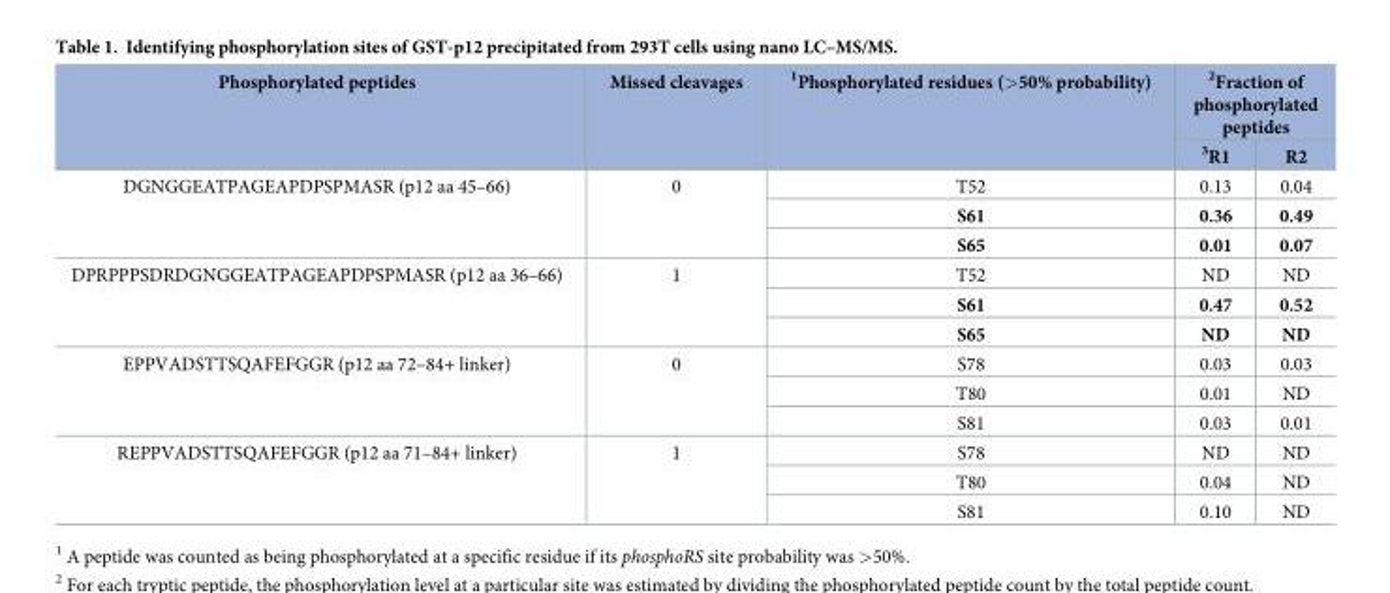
<table><thead><tr><td rowspan="2">Phosphorylated peptides</td><td rowspan="2">Missed cleavages</td><td rowspan="2"><sup>1</sup>Phosphorylated residues (&gt;50% probability)</td><td colspan="2"><sup>2</sup>Fraction of phosphorylated peptides</td></tr><tr><td><sup>3</sup>R1</td><td>R2</td></tr></thead><tbody><tr><td rowspan="3">DGNGGEATPAGEAPDPSPMASR (p12 aa 45–66)</td><td rowspan="3">0</td><td>T52</td><td>0.13</td><td>0.04</td></tr><tr><td>S61</td><td>0.36</td><td>0.49</td></tr><tr><td>S65</td><td>0.01</td><td>0.07</td></tr><tr><td rowspan="3">DPRPPPSDRDGNGGEATPAGEAPDPSPMASR (p12 aa 36–66)</td><td rowspan="3">1</td><td>T52</td><td>ND</td><td>ND</td></tr><tr><td>S61</td><td>0.47</td><td>0.52</td></tr><tr><td>S65</td><td>ND</td><td>ND</td></tr><tr><td rowspan="3">EPPVADSTTSQAFEFGGR (p12 aa 72–84+ linker)</td><td rowspan="3">0</td><td>S78</td><td>0.03</td><td>0.03</td></tr><tr><td>T80</td><td>0.01</td><td>ND</td></tr><tr><td>S81</td><td>0.03</td><td>0.01</td></tr><tr><td rowspan="3">REPPVADSTTSQAFEFGGR (p12 aa 71–84+ linker)</td><td rowspan="3">1</td><td>S78</td><td>ND</td><td>ND</td></tr><tr><td>T80</td><td>0.04</td><td>ND</td></tr><tr><td>S81</td><td>0.10</td><td>ND</td></tr></tbody></table>